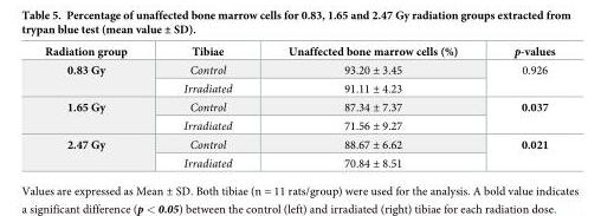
<table><thead><tr><td>Radiation group</td><td>Tibiae</td><td>Unaffected bone marrow cells (%)</td><td>p-values</td></tr></thead><tbody><tr><td rowspan="2">0.83 Gy</td><td>Control</td><td>93.20 ± 3.45</td><td rowspan="2">0.926</td></tr><tr><td>Irradiated</td><td>91.11 ± 4.23</td></tr><tr><td rowspan="2">1.65 Gy</td><td>Control</td><td>87.34 ± 7.37</td><td rowspan="2">0.037</td></tr><tr><td>Irradiated</td><td>71.56 ± 9.27</td></tr><tr><td rowspan="2">2.47 Gy</td><td>Control</td><td>88.67 ± 6.62</td><td rowspan="2">0.021</td></tr><tr><td>Irradiated</td><td>70.84 ± 8.51</td></tr></tbody></table>